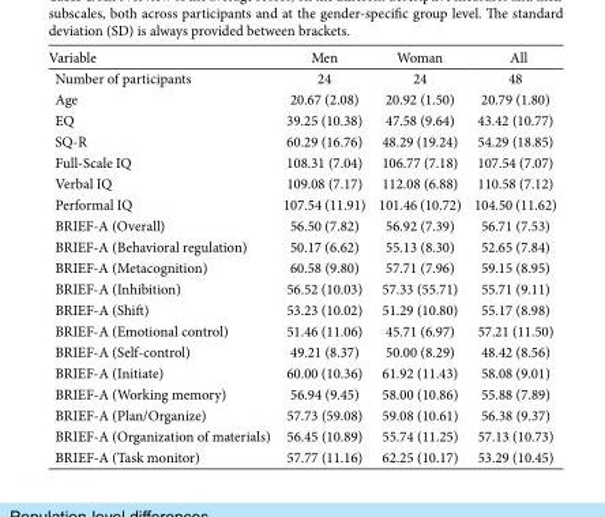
<table><thead><tr><td>Variable</td><td>Men</td><td>Woman</td><td>All</td></tr></thead><tbody><tr><td>Number of participants</td><td>24</td><td>24</td><td>48</td></tr><tr><td>Age</td><td>20.67 (2.08)</td><td>20.92 (1.50)</td><td>20.79 (1.80)</td></tr><tr><td>EQ</td><td>39.25 (10.38)</td><td>47.58 (9.64)</td><td>43.42 (10.77)</td></tr><tr><td>SQ-R</td><td>60.29 (16.76)</td><td>48.29 (19.24)</td><td>54.29 (18.85)</td></tr><tr><td>Full-Scale IQ</td><td>108.31 (7.04)</td><td>106.77 (7.18)</td><td>107.54 (7.07)</td></tr><tr><td>Verbal IQ</td><td>109.08 (7.17)</td><td>112.08 (6.88)</td><td>110.58 (7.12)</td></tr><tr><td>Performal IQ</td><td>107.54 (11.91)</td><td>101.46 (10.72)</td><td>104.50 (11.62)</td></tr><tr><td>BRIEF-A (Overall)</td><td>56.50 (7.82)</td><td>56.92 (7.39)</td><td>56.71 (7.53)</td></tr><tr><td>BRIEF-A (Behavioral regulation)</td><td>50.17 (6.62)</td><td>55.13 (8.30)</td><td>52.65 (7.84)</td></tr><tr><td>BRIEF-A (Metacognition)</td><td>60.58 (9.80)</td><td>57.71 (7.96)</td><td>59.15 (8.95)</td></tr><tr><td>BRIEF-A (Inhibition)</td><td>56.52 (10.03)</td><td>57.33 (55.71)</td><td>55.71 (9.11)</td></tr><tr><td>BRIEF-A (Shift)</td><td>53.23 (10.02)</td><td>51.29 (10.80)</td><td>55.17 (8.98)</td></tr><tr><td>BRIEF-A (Emotional control)</td><td>51.46 (11.06)</td><td>45.71 (6.97)</td><td>57.21 (11.50)</td></tr><tr><td>BRIEF-A (Self-control)</td><td>49.21 (8.37)</td><td>50.00 (8.29)</td><td>48.42 (8.56)</td></tr><tr><td>BRIEF-A (Initiate)</td><td>60.00 (10.36)</td><td>61.92 (11.43)</td><td>58.08 (9.01)</td></tr><tr><td>BRIEF-A (Working memory)</td><td>56.94 (9.45)</td><td>58.00 (10.86)</td><td>55.88 (7.89)</td></tr><tr><td>BRIEF-A (Plan/Organize)</td><td>57.73 (59.08)</td><td>59.08 (10.61)</td><td>56.38 (9.37)</td></tr><tr><td>BRIEF-A (Organization of materials)</td><td>56.45 (10.89)</td><td>55.74 (11.25)</td><td>57.13 (10.73)</td></tr><tr><td>BRIEF-A (Task monitor)</td><td>57.77 (11.16)</td><td>62.25 (10.17)</td><td>53.29 (10.45)</td></tr></tbody></table>